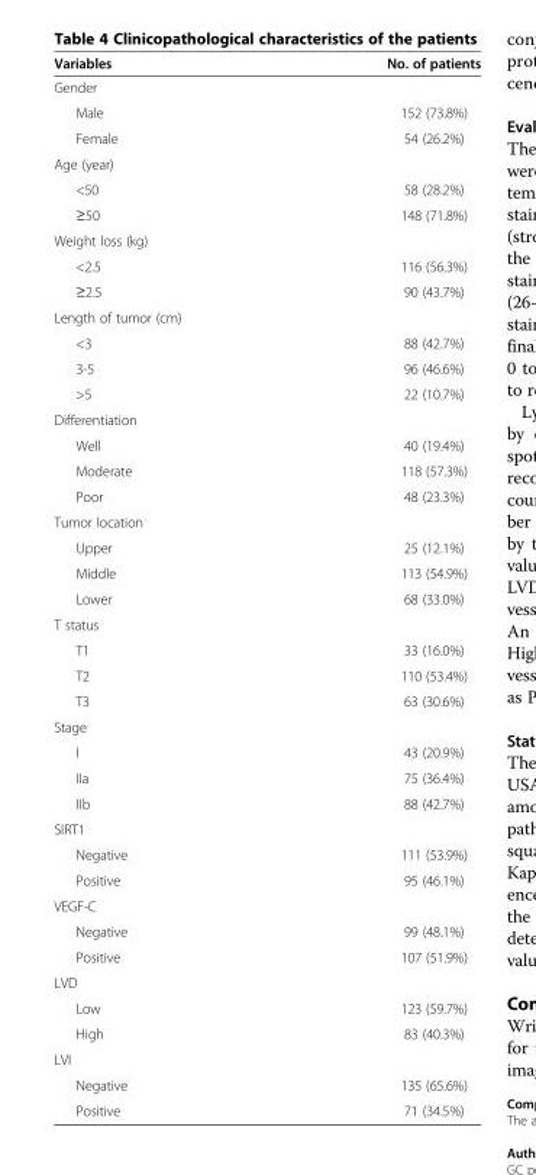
<table><thead><tr><td>Variables</td><td>No. of patients</td></tr></thead><tbody><tr><td colspan="2">Gender</td></tr><tr><td>Male</td><td>152 (73.8%)</td></tr><tr><td>Female</td><td>54 (26.2%)</td></tr><tr><td colspan="2">Age (year)</td></tr><tr><td>&lt;50</td><td>58 (28.2%)</td></tr><tr><td>≥50</td><td>148 (71.8%)</td></tr><tr><td colspan="2">Weight loss (kg)</td></tr><tr><td>&lt;2.5</td><td>116 (56.3%)</td></tr><tr><td>≥2.5</td><td>90 (43.7%)</td></tr><tr><td colspan="2">Length of tumor (cm)</td></tr><tr><td>&lt;3</td><td>88 (42.7%)</td></tr><tr><td>3-5</td><td>96 (46.6%)</td></tr><tr><td>&gt;5</td><td>22 (10.7%)</td></tr><tr><td colspan="2">Differentiation</td></tr><tr><td>Well</td><td>40 (19.4%)</td></tr><tr><td>Moderate</td><td>118 (57.3%)</td></tr><tr><td>Poor</td><td>48 (23.3%)</td></tr><tr><td colspan="2">Tumor location</td></tr><tr><td>Upper</td><td>25 (12.1%)</td></tr><tr><td>Middle</td><td>113 (54.9%)</td></tr><tr><td>Lower</td><td>68 (33.0%)</td></tr><tr><td colspan="2">T status</td></tr><tr><td>T1</td><td>33 (16.0%)</td></tr><tr><td>T2</td><td>110 (53.4%)</td></tr><tr><td>T3</td><td>63 (30.6%)</td></tr><tr><td colspan="2">Stage</td></tr><tr><td>I</td><td>43 (20.9%)</td></tr><tr><td>IIa</td><td>75 (36.4%)</td></tr><tr><td>IIb</td><td>88 (42.7%)</td></tr><tr><td colspan="2">SIRT1</td></tr><tr><td>Negative</td><td>111 (53.9%)</td></tr><tr><td>Positive</td><td>95 (46.1%)</td></tr><tr><td colspan="2">VEGF-C</td></tr><tr><td>Negative</td><td>99 (48.1%)</td></tr><tr><td>Positive</td><td>107 (51.9%)</td></tr><tr><td colspan="2">LVD</td></tr><tr><td>Low</td><td>123 (59.7%)</td></tr><tr><td>High</td><td>83 (40.3%)</td></tr><tr><td colspan="2">LVI</td></tr><tr><td>Negative</td><td>135 (65.6%)</td></tr><tr><td>Positive</td><td>71 (34.5%)</td></tr></tbody></table>